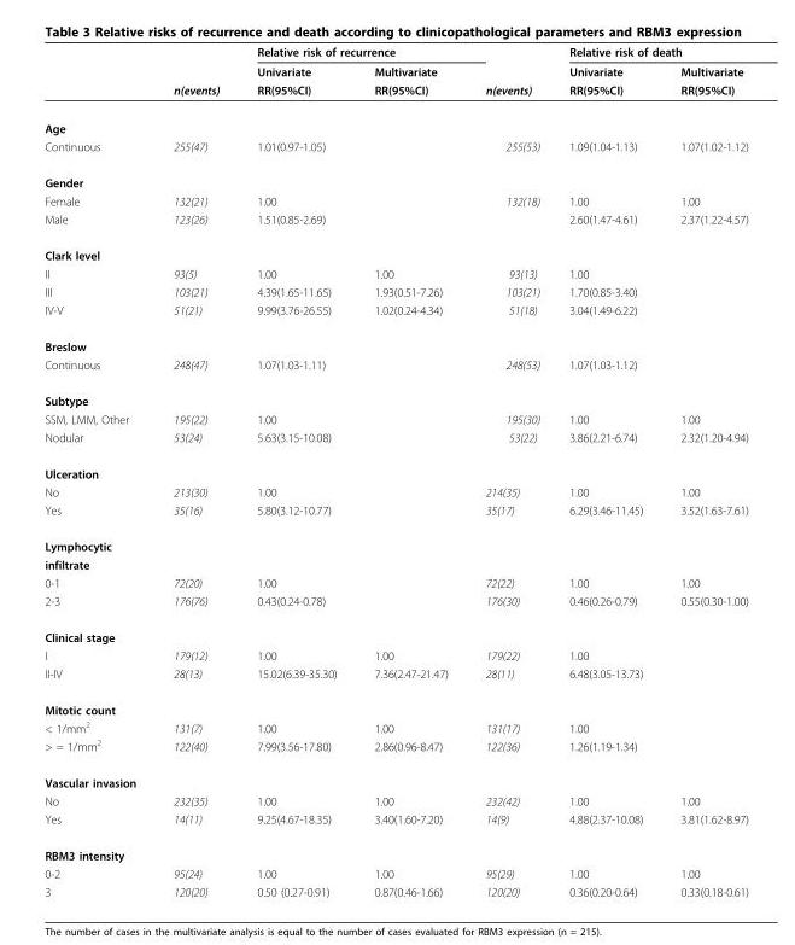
<table><thead><tr><td rowspan="3"></td><td rowspan="3">n(events)</td><td colspan="2">Relative risk of recurrence</td><td rowspan="3">n(events)</td><td colspan="2">Relative risk of death</td></tr><tr><td rowspan="2">Univariate RR(95%CI)</td><td rowspan="2">Multivariate RR(95%CI)</td><td rowspan="2">Univariate RR(95%CI)</td><td rowspan="2">Multivariate RR(95%CI)</td></tr><tr></tr></thead><tbody><tr><td colspan="7">Age</td></tr><tr><td>Continuous</td><td>255(47)</td><td>1.01(0.97-1.05)</td><td></td><td>255(53)</td><td>1.09(1.04-1.13)</td><td>1.07(1.02-1.12)</td></tr><tr><td colspan="7">Gender</td></tr><tr><td>Female</td><td>132(21)</td><td>1.00</td><td></td><td>132(18)</td><td>1.00</td><td>1.00</td></tr><tr><td>Male</td><td>123(26)</td><td>1.51(0.85-2.69)</td><td></td><td></td><td>2.60(1.47-4.61)</td><td>2.37(1.22-4.57)</td></tr><tr><td colspan="7">Clark level</td></tr><tr><td>II</td><td>93(5)</td><td>1.00</td><td>1.00</td><td>93(13)</td><td>1.00</td><td></td></tr><tr><td>III</td><td>103(21)</td><td>4.39(1.65-11.65)</td><td>1.93(0.51-7.26)</td><td>103(21)</td><td>1.70(0.85-3.40)</td><td></td></tr><tr><td>IV-V</td><td>51(21)</td><td>9.99(3.76-26.55)</td><td>1.02(0.24-4.34)</td><td>51(18)</td><td>3.04(1.49-6.22)</td><td></td></tr><tr><td colspan="7">Breslow</td></tr><tr><td>Continuous</td><td>248(47)</td><td>1.07(1.03-1.11)</td><td></td><td>248(53)</td><td>1.07(1.03-1.12)</td><td></td></tr><tr><td colspan="7">Subtype</td></tr><tr><td>SSM, LMM, Other</td><td>195(22)</td><td>1.00</td><td></td><td>195(30)</td><td>1.00</td><td>1.00</td></tr><tr><td>Nodular</td><td>53(24)</td><td>5.63(3.15-10.08)</td><td></td><td>53(22)</td><td>3.86(2.21-6.74)</td><td>2.32(1.20-4.94)</td></tr><tr><td colspan="7">Ulceration</td></tr><tr><td>No</td><td>213(30)</td><td>1.00</td><td></td><td>214(35)</td><td>1.00</td><td>1.00</td></tr><tr><td>Yes</td><td>35(16)</td><td>5.80(3.12-10.77)</td><td></td><td>35(17)</td><td>6.29(3.46-11.45)</td><td>3.52(1.63-7.61)</td></tr><tr><td colspan="7">Lymphocytic</td></tr><tr><td colspan="7">infiltrate</td></tr><tr><td>0-1</td><td>72(20)</td><td>1.00</td><td></td><td>72(22)</td><td>1.00</td><td>1.00</td></tr><tr><td>2-3</td><td>176(76)</td><td>0.43(0.24-0.78)</td><td></td><td>176(30)</td><td>0.46(0.26-0.79)</td><td>0.55(0.30-1.00)</td></tr><tr><td colspan="7">Clinical stage</td></tr><tr><td>I</td><td>179(12)</td><td>1.00</td><td>1.00</td><td>179(22)</td><td>1.00</td><td></td></tr><tr><td>II-IV</td><td>28(13)</td><td>15.02(6.39-35.30)</td><td>7.36(2.47-21.47)</td><td>28(11)</td><td>6.48(3.05-13.73)</td><td></td></tr><tr><td colspan="7">Mitotic count</td></tr><tr><td>&lt; 1/mm<sup>2</sup></td><td>131(7)</td><td>1.00</td><td>1.00</td><td>131(17)</td><td>1.00</td><td></td></tr><tr><td>&gt; = 1/mm<sup>2</sup></td><td>122(40)</td><td>7.99(3.56-17.80)</td><td>2.86(0.96-8.47)</td><td>122(36)</td><td>1.26(1.19-1.34)</td><td></td></tr><tr><td colspan="7">Vascular invasion</td></tr><tr><td>No</td><td>232(35)</td><td>1.00</td><td>1.00</td><td>232(42)</td><td>1.00</td><td>1.00</td></tr><tr><td>Yes</td><td>14(11)</td><td>9.25(4.67-18.35)</td><td>3.40(1.60-7.20)</td><td>14(9)</td><td>4.88(2.37-10.08)</td><td>3.81(1.62-8.97)</td></tr><tr><td colspan="7">RBM3 intensity</td></tr><tr><td>0-2</td><td>95(24)</td><td>1.00</td><td>1.00</td><td>95(29)</td><td>1.00</td><td>1.00</td></tr><tr><td>3</td><td>120(20)</td><td>0.50 (0.27-0.91)</td><td>0.87(0.46-1.66)</td><td>120(20)</td><td>0.36(0.20-0.64)</td><td>0.33(0.18-0.61)</td></tr></tbody></table>